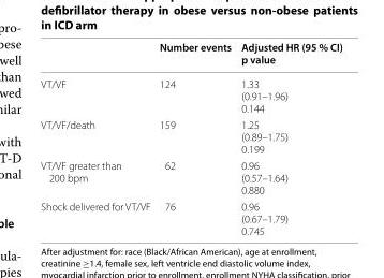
<table><thead><tr><td></td><td>Number events</td><td>Adjusted HR (95 % CI) p value</td></tr></thead><tbody><tr><td>VT/VF</td><td>124</td><td>1.33 (0.91–1.96) 0.144</td></tr><tr><td>VT/VF/death</td><td>159</td><td>1.25 (0.89–1.75) 0.199</td></tr><tr><td>VT/VF greater than 200 bpm</td><td>62</td><td>0.96 (0.57–1.64) 0.880</td></tr><tr><td>Shock delivered for VT/VF</td><td>76</td><td>0.96 (0.67–1.79) 0.745</td></tr></tbody></table>